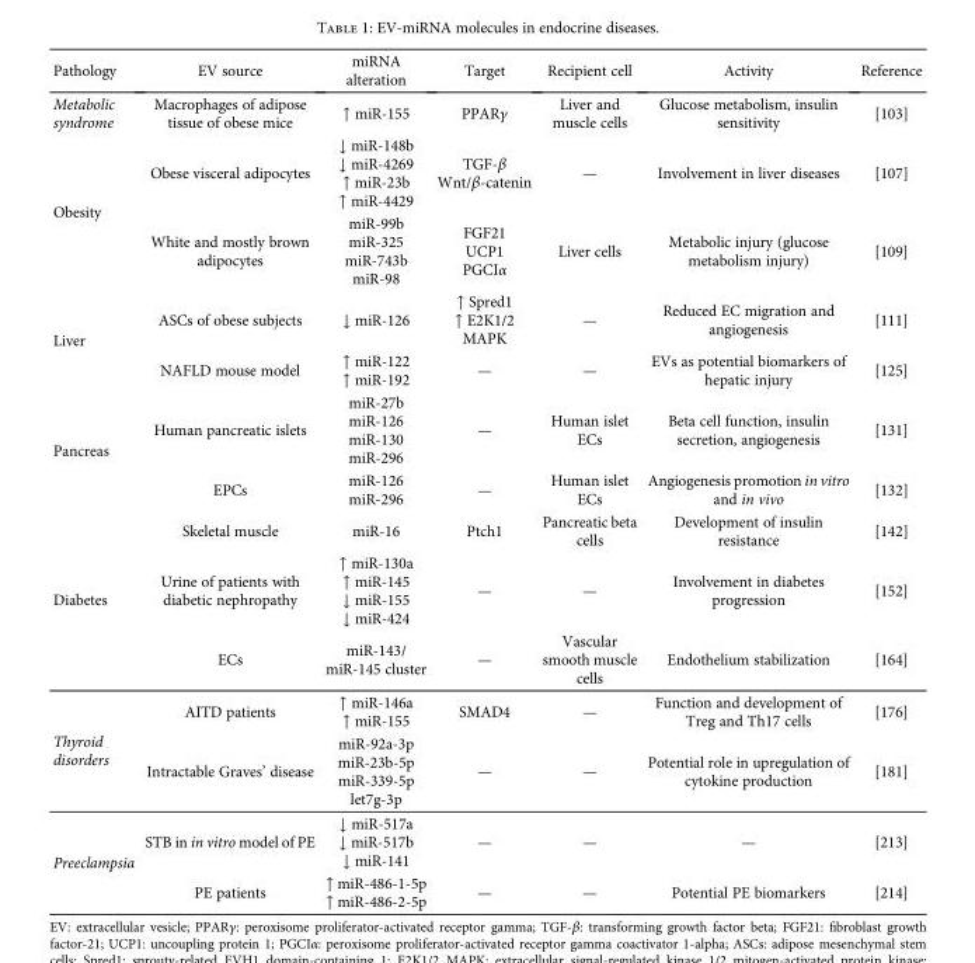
<table><thead><tr><td>Pathology</td><td>EV source</td><td>miRNA alteration</td><td>Target</td><td>Recipient cell</td><td>Activity</td><td>Reference</td></tr></thead><tbody><tr><td>Metabolic syndrome</td><td>Macrophages of adipose tissue of obese mice</td><td>↑ miR-155</td><td>PPARγ</td><td>Liver and muscle cells</td><td>Glucose metabolism, insulin sensitivity</td><td>[103]</td></tr><tr><td rowspan="2">Obesity</td><td>Obese visceral adipocytes</td><td>↓ miR-148b ↓ miR-4269 ↑ miR-23b ↑ miR-4429</td><td>TGF-β Wnt/β-catenin</td><td>—</td><td>Involvement in liver diseases</td><td>[107]</td></tr><tr><td>White and mostly brown adipocytes</td><td>miR-99b miR-325 miR-743b miR-98</td><td>FGF21 UCP1 PGCIα</td><td>Liver cells</td><td>Metabolic injury (glucose metabolism injury)</td><td>[109]</td></tr><tr><td rowspan="2">Liver</td><td>ASCs of obese subjects</td><td>↓ miR-126</td><td>↑ Spred1 ↑ E2K1/2 MAPK</td><td>—</td><td>Reduced EC migration and angiogenesis</td><td>[111]</td></tr><tr><td>NAFLD mouse model</td><td>↑ miR-122 ↑ miR-192</td><td>—</td><td>—</td><td>EVs as potential biomarkers of hepatic injury</td><td>[125]</td></tr><tr><td rowspan="2">Pancreas</td><td>Human pancreatic islets</td><td>miR-27b miR-126 miR-130 miR-296</td><td>—</td><td>Human islet ECs</td><td>Beta cell function, insulin secretion, angiogenesis</td><td>[131]</td></tr><tr><td>EPCs</td><td>miR-126 miR-296</td><td>—</td><td>Human islet ECs</td><td>Angiogenesis promotion in vitro and in vivo</td><td>[132]</td></tr><tr><td rowspan="3">Diabetes</td><td>Skeletal muscle</td><td>miR-16</td><td>Ptch1</td><td>Pancreatic beta cells</td><td>Development of insulin resistance</td><td>[142]</td></tr><tr><td>Urine of patients with diabetic nephropathy</td><td>↑ miR-130a ↑ miR-145 ↓ miR-155 ↓ miR-424</td><td>—</td><td>—</td><td>Involvement in diabetes progression</td><td>[152]</td></tr><tr><td>ECs</td><td>miR-143/ miR-145 cluster</td><td>—</td><td>Vascular smooth muscle cells</td><td>Endothelium stabilization</td><td>[164]</td></tr><tr><td rowspan="2">Thyroid disorders</td><td>AITD patients</td><td>↑ miR-146a ↑ miR-155</td><td>SMAD4</td><td>—</td><td>Function and development of Treg and Th17 cells</td><td>[176]</td></tr><tr><td>Intractable Graves’ disease</td><td>miR-92a-3p miR-23b-5p miR-339-5p let7g-3p</td><td>—</td><td>—</td><td>Potential role in upregulation of cytokine production</td><td>[181]</td></tr><tr><td rowspan="2">Preeclampsia</td><td>STB in in vitro model of PE</td><td>↓ miR-517a ↓ miR-517b ↓ miR-141</td><td>—</td><td>—</td><td>—</td><td>[213]</td></tr><tr><td>PE patients</td><td>↑ miR-486-1-5p ↑ miR-486-2-5p</td><td>—</td><td>—</td><td>Potential PE biomarkers</td><td>[214]</td></tr></tbody></table>